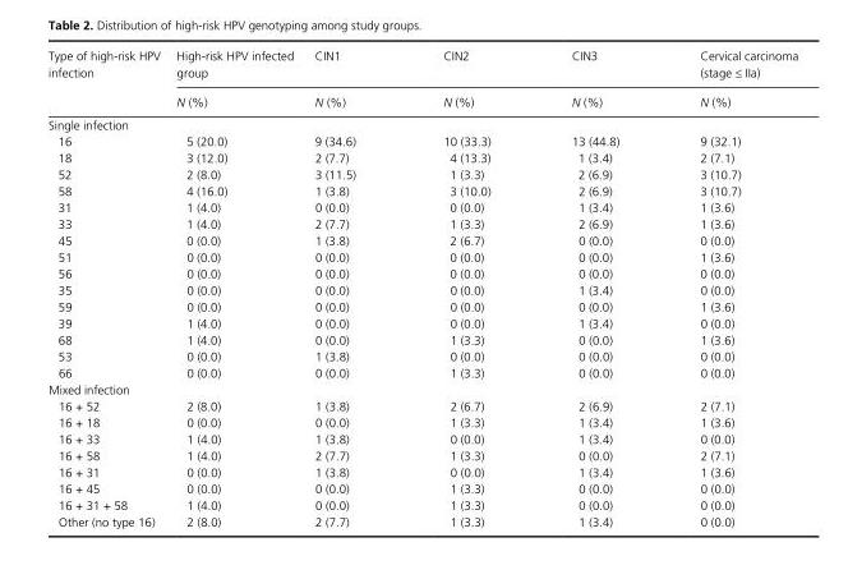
<table><thead><tr><td rowspan="2">Type of high- risk HPV infection</td><td rowspan="2">High- risk HPV infected group N (%)</td><td rowspan="2">CIN1 N (%)</td><td rowspan="2">CIN2 N (%)</td><td rowspan="2">CIN3 N (%)</td><td rowspan="2">Cervical carcinoma (stage ≤ IIa) N (%)</td></tr><tr></tr></thead><tbody><tr><td colspan="6">Single infection</td></tr><tr><td>16</td><td>5 (20.0)</td><td>9 (34.6)</td><td>10 (33.3)</td><td>13 (44.8)</td><td>9 (32.1)</td></tr><tr><td>18</td><td>3 (12.0)</td><td>2 (7.7)</td><td>4 (13.3)</td><td>1 (3.4)</td><td>2 (7.1)</td></tr><tr><td>52</td><td>2 (8.0)</td><td>3 (11.5)</td><td>1 (3.3)</td><td>2 (6.9)</td><td>3 (10.7)</td></tr><tr><td>58</td><td>4 (16.0)</td><td>1 (3.8)</td><td>3 (10.0)</td><td>2 (6.9)</td><td>3 (10.7)</td></tr><tr><td>31</td><td>1 (4.0)</td><td>0 (0.0)</td><td>0 (0.0)</td><td>1 (3.4)</td><td>1 (3.6)</td></tr><tr><td>33</td><td>1 (4.0)</td><td>2 (7.7)</td><td>1 (3.3)</td><td>2 (6.9)</td><td>1 (3.6)</td></tr><tr><td>45</td><td>0 (0.0)</td><td>1 (3.8)</td><td>2 (6.7)</td><td>0 (0.0)</td><td>0 (0.0)</td></tr><tr><td>51</td><td>0 (0.0)</td><td>0 (0.0)</td><td>0 (0.0)</td><td>0 (0.0)</td><td>1 (3.6)</td></tr><tr><td>56</td><td>0 (0.0)</td><td>0 (0.0)</td><td>0 (0.0)</td><td>0 (0.0)</td><td>0 (0.0)</td></tr><tr><td>35</td><td>0 (0.0)</td><td>0 (0.0)</td><td>0 (0.0)</td><td>1 (3.4)</td><td>0 (0.0)</td></tr><tr><td>59</td><td>0 (0.0)</td><td>0 (0.0)</td><td>0 (0.0)</td><td>0 (0.0)</td><td>1 (3.6)</td></tr><tr><td>39</td><td>1 (4.0)</td><td>0 (0.0)</td><td>0 (0.0)</td><td>1 (3.4)</td><td>0 (0.0)</td></tr><tr><td>68</td><td>1 (4.0)</td><td>0 (0.0)</td><td>1 (3.3)</td><td>0 (0.0)</td><td>1 (3.6)</td></tr><tr><td>53</td><td>0 (0.0)</td><td>1 (3.8)</td><td>0 (0.0)</td><td>0 (0.0)</td><td>0 (0.0)</td></tr><tr><td>66</td><td>0 (0.0)</td><td>0 (0.0)</td><td>1 (3.3)</td><td>0 (0.0)</td><td>0 (0.0)</td></tr><tr><td colspan="6">Mixed infection</td></tr><tr><td>16 + 52</td><td>2 (8.0)</td><td>1 (3.8)</td><td>2 (6.7)</td><td>2 (6.9)</td><td>2 (7.1)</td></tr><tr><td>16 + 18</td><td>0 (0.0)</td><td>0 (0.0)</td><td>1 (3.3)</td><td>1 (3.4)</td><td>1 (3.6)</td></tr><tr><td>16 + 33</td><td>1 (4.0)</td><td>1 (3.8)</td><td>0 (0.0)</td><td>1 (3.4)</td><td>0 (0.0)</td></tr><tr><td>16 + 58</td><td>1 (4.0)</td><td>2 (7.7)</td><td>1 (3.3)</td><td>0 (0.0)</td><td>2 (7.1)</td></tr><tr><td>16 + 31</td><td>0 (0.0)</td><td>1 (3.8)</td><td>0 (0.0)</td><td>1 (3.4)</td><td>1 (3.6)</td></tr><tr><td>16 + 45</td><td>0 (0.0)</td><td>0 (0.0)</td><td>1 (3.3)</td><td>0 (0.0)</td><td>0 (0.0)</td></tr><tr><td>16 + 31 + 58</td><td>1 (4.0)</td><td>0 (0.0)</td><td>1 (3.3)</td><td>0 (0.0)</td><td>0 (0.0)</td></tr><tr><td>Other (no type 16)</td><td>2 (8.0)</td><td>2 (7.7)</td><td>1 (3.3)</td><td>1 (3.4)</td><td>0 (0.0)</td></tr></tbody></table>